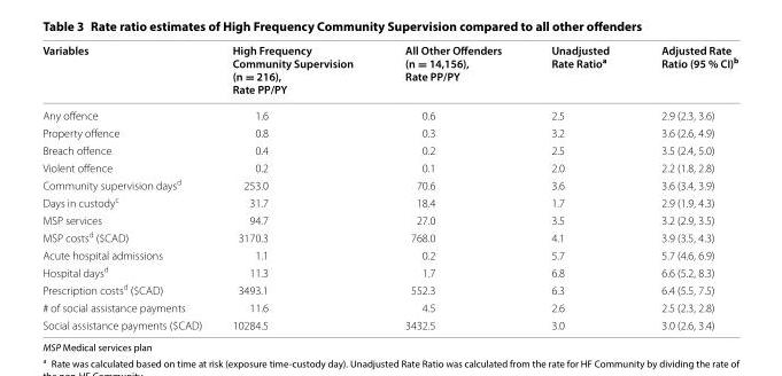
<table><thead><tr><td>Variables</td><td>High Frequency Community Supervision (n = 216), Rate PP/PY</td><td>All Other Offenders (n = 14,156), Rate PP/PY</td><td>Unadjusted Rate Ratio<sup>a</sup></td><td>Adjusted Rate Ratio (95 % CI)<sup>b</sup></td></tr></thead><tbody><tr><td>Any offence</td><td>1.6</td><td>0.6</td><td>2.5</td><td>2.9 (2.3, 3.6)</td></tr><tr><td>Property offence</td><td>0.8</td><td>0.3</td><td>3.2</td><td>3.6 (2.6, 4.9)</td></tr><tr><td>Breach offence</td><td>0.4</td><td>0.2</td><td>2.5</td><td>3.5 (2.4, 5.0)</td></tr><tr><td>Violent offence</td><td>0.2</td><td>0.1</td><td>2.0</td><td>2.2 (1.8, 2.8)</td></tr><tr><td>Community supervision days<sup>d</sup></td><td>253.0</td><td>70.6</td><td>3.6</td><td>3.6 (3.4, 3.9)</td></tr><tr><td>Days in custody<sup>c</sup></td><td>31.7</td><td>18.4</td><td>1.7</td><td>2.9 (1.9, 4.3)</td></tr><tr><td>MSP services</td><td>94.7</td><td>27.0</td><td>3.5</td><td>3.2 (2.9, 3.5)</td></tr><tr><td>MSP costs<sup>d</sup> ($CAD)</td><td>3170.3</td><td>768.0</td><td>4.1</td><td>3.9 (3.5, 4.3)</td></tr><tr><td>Acute hospital admissions</td><td>1.1</td><td>0.2</td><td>5.7</td><td>5.7 (4.6, 6.9)</td></tr><tr><td>Hospital days<sup>d</sup></td><td>11.3</td><td>1.7</td><td>6.8</td><td>6.6 (5.2, 8.3)</td></tr><tr><td>Prescription costs<sup>d</sup> ($CAD)</td><td>3493.1</td><td>552.3</td><td>6.3</td><td>6.4 (5.5, 7.5)</td></tr><tr><td># of social assistance payments</td><td>11.6</td><td>4.5</td><td>2.6</td><td>2.5 (2.3, 2.8)</td></tr><tr><td>Social assistance payments ($CAD)</td><td>10284.5</td><td>3432.5</td><td>3.0</td><td>3.0 (2.6, 3.4)</td></tr></tbody></table>